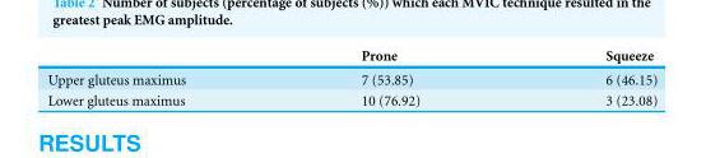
<table><thead><tr><td></td><td>Prone</td><td>Squeeze</td></tr></thead><tbody><tr><td>Upper gluteus maximus</td><td>7 (53.85)</td><td>6 (46.15)</td></tr><tr><td>Lower gluteus maximus</td><td>10 (76.92)</td><td>3 (23.08)</td></tr></tbody></table>